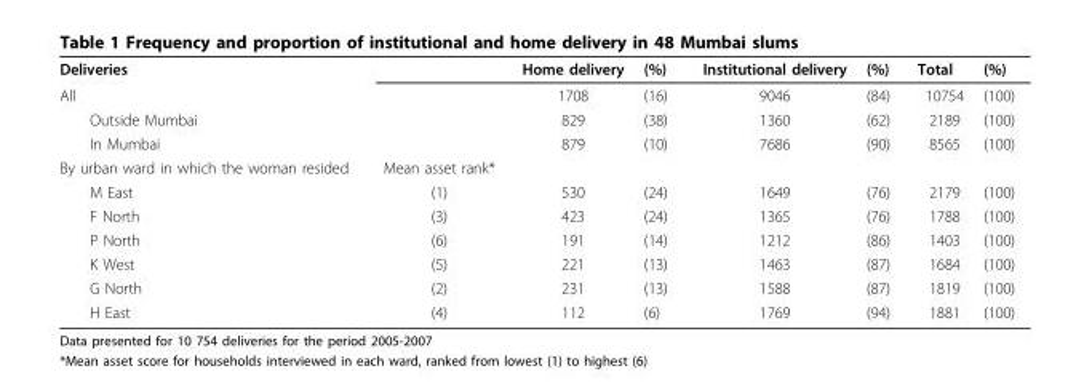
<table><tbody><tr><td>Deliveries</td><td></td><td>Home delivery</td><td>(%)</td><td>Institutional delivery</td><td>(%)</td><td>Total</td><td>(%)</td></tr><tr><td>All</td><td></td><td>1708</td><td>(16)</td><td>9046</td><td>(84)</td><td>10754</td><td>(100)</td></tr><tr><td>Outside Mumbai</td><td></td><td>829</td><td>(38)</td><td>1360</td><td>(62)</td><td>2189</td><td>(100)</td></tr><tr><td>In Mumbai</td><td></td><td>879</td><td>(10)</td><td>7686</td><td>(90)</td><td>8565</td><td>(100)</td></tr><tr><td>By urban ward in which the woman resided</td><td>Mean asset rank*</td><td></td><td></td><td></td><td></td><td></td><td></td></tr><tr><td>M East</td><td>(1)</td><td>530</td><td>(24)</td><td>1649</td><td>(76)</td><td>2179</td><td>(100)</td></tr><tr><td>F North</td><td>(3)</td><td>423</td><td>(24)</td><td>1365</td><td>(76)</td><td>1788</td><td>(100)</td></tr><tr><td>P North</td><td>(6)</td><td>191</td><td>(14)</td><td>1212</td><td>(86)</td><td>1403</td><td>(100)</td></tr><tr><td>K West</td><td>(5)</td><td>221</td><td>(13)</td><td>1463</td><td>(87)</td><td>1684</td><td>(100)</td></tr><tr><td>G North</td><td>(2)</td><td>231</td><td>(13)</td><td>1588</td><td>(87)</td><td>1819</td><td>(100)</td></tr><tr><td>H East</td><td>(4)</td><td>112</td><td>(6)</td><td>1769</td><td>(94)</td><td>1881</td><td>(100)</td></tr></tbody></table>